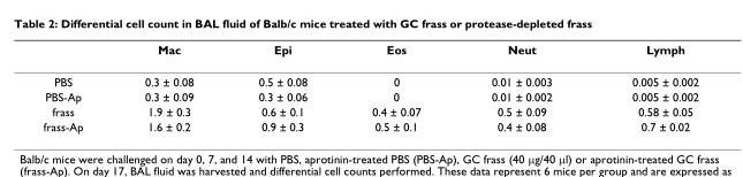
<table><thead><tr><td></td><td>Mac</td><td>Epi</td><td>Eos</td><td>Neut</td><td>Lymph</td></tr></thead><tbody><tr><td>PBS</td><td>0.3 ± 0.08</td><td>0.5 ± 0.08</td><td>0</td><td>0.01 ± 0.003</td><td>0.005 ± 0.002</td></tr><tr><td>PBS-Ap</td><td>0.3 ± 0.09</td><td>0.3 ± 0.06</td><td>0</td><td>0.01 ± 0.002</td><td>0.005 ± 0.002</td></tr><tr><td>frass</td><td>1.9 ± 0.3</td><td>0.6 ± 0.1</td><td>0.4 ± 0.07</td><td>0.5 ± 0.09</td><td>0.58 ± 0.05</td></tr><tr><td>frass-Ap</td><td>1.6 ± 0.2</td><td>0.9 ± 0.3</td><td>0.5 ± 0.1</td><td>0.4 ± 0.08</td><td>0.7 ± 0.02</td></tr></tbody></table>